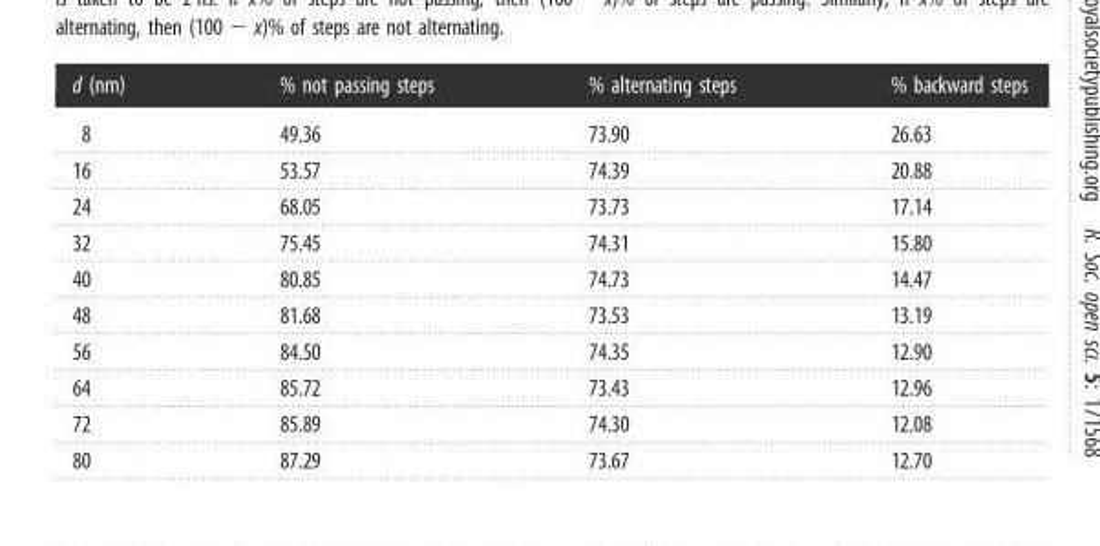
<table><thead><tr><td>d (nm)</td><td>% not passing steps</td><td>% alternating steps</td><td>% backward steps</td></tr></thead><tbody><tr><td>8</td><td>49.36</td><td>73.90</td><td>26.63</td></tr><tr><td>16</td><td>53.57</td><td>74.39</td><td>20.88</td></tr><tr><td>24</td><td>68.05</td><td>73.73</td><td>17.14</td></tr><tr><td>32</td><td>75.45</td><td>74.31</td><td>15.80</td></tr><tr><td>40</td><td>80.85</td><td>74.73</td><td>14.47</td></tr><tr><td>48</td><td>81.68</td><td>73.53</td><td>13.19</td></tr><tr><td>56</td><td>84.50</td><td>74.35</td><td>12.90</td></tr><tr><td>64</td><td>85.72</td><td>73.43</td><td>12.96</td></tr><tr><td>72</td><td>85.89</td><td>74.30</td><td>12.08</td></tr><tr><td>80</td><td>87.29</td><td>73.67</td><td>12.70</td></tr></tbody></table>